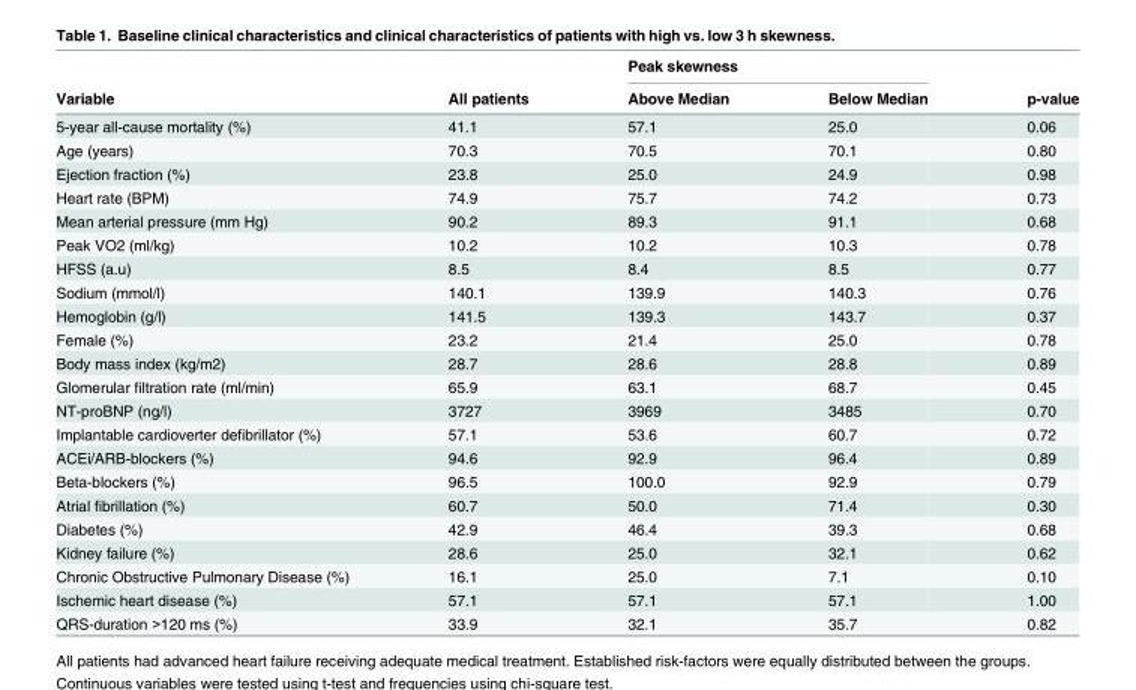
<table><thead><tr><td rowspan="2">Variable</td><td rowspan="2">All patients</td><td colspan="2">Peak skewness</td><td rowspan="2">p-value</td></tr><tr><td>Above Median</td><td>Below Median</td></tr></thead><tbody><tr><td>5-year all-cause mortality (%)</td><td>41.1</td><td>57.1</td><td>25.0</td><td>0.06</td></tr><tr><td>Age (years)</td><td>70.3</td><td>70.5</td><td>70.1</td><td>0.80</td></tr><tr><td>Ejection fraction (%)</td><td>23.8</td><td>25.0</td><td>24.9</td><td>0.98</td></tr><tr><td>Heart rate (BPM)</td><td>74.9</td><td>75.7</td><td>74.2</td><td>0.73</td></tr><tr><td>Mean arterial pressure (mm Hg)</td><td>90.2</td><td>89.3</td><td>91.1</td><td>0.68</td></tr><tr><td>Peak VO2 (ml/kg)</td><td>10.2</td><td>10.2</td><td>10.3</td><td>0.78</td></tr><tr><td>HFSS (a.u)</td><td>8.5</td><td>8.4</td><td>8.5</td><td>0.77</td></tr><tr><td>Sodium (mmol/l)</td><td>140.1</td><td>139.9</td><td>140.3</td><td>0.76</td></tr><tr><td>Hemoglobin (g/l)</td><td>141.5</td><td>139.3</td><td>143.7</td><td>0.37</td></tr><tr><td>Female (%)</td><td>23.2</td><td>21.4</td><td>25.0</td><td>0.78</td></tr><tr><td>Body mass index (kg/m2)</td><td>28.7</td><td>28.6</td><td>28.8</td><td>0.89</td></tr><tr><td>Glomerular filtration rate (ml/min)</td><td>65.9</td><td>63.1</td><td>68.7</td><td>0.45</td></tr><tr><td>NT-proBNP (ng/l)</td><td>3727</td><td>3969</td><td>3485</td><td>0.70</td></tr><tr><td>Implantable cardioverter defibrillator (%)</td><td>57.1</td><td>53.6</td><td>60.7</td><td>0.72</td></tr><tr><td>ACEi/ARB-blockers (%)</td><td>94.6</td><td>92.9</td><td>96.4</td><td>0.89</td></tr><tr><td>Beta-blockers (%)</td><td>96.5</td><td>100.0</td><td>92.9</td><td>0.79</td></tr><tr><td>Atrial fibrillation (%)</td><td>60.7</td><td>50.0</td><td>71.4</td><td>0.30</td></tr><tr><td>Diabetes (%)</td><td>42.9</td><td>46.4</td><td>39.3</td><td>0.68</td></tr><tr><td>Kidney failure (%)</td><td>28.6</td><td>25.0</td><td>32.1</td><td>0.62</td></tr><tr><td>Chronic Obstructive Pulmonary Disease (%)</td><td>16.1</td><td>25.0</td><td>7.1</td><td>0.10</td></tr><tr><td>Ischemic heart disease (%)</td><td>57.1</td><td>57.1</td><td>57.1</td><td>1.00</td></tr><tr><td>QRS-duration &gt;120 ms (%)</td><td>33.9</td><td>32.1</td><td>35.7</td><td>0.82</td></tr></tbody></table>